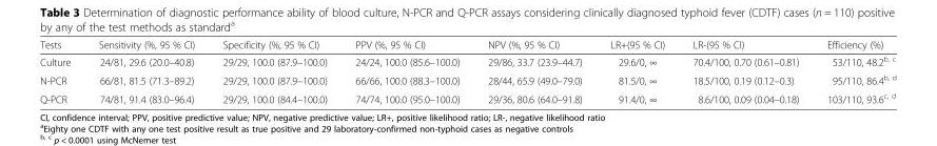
<table><thead><tr><td>Tests</td><td>Sensitivity (%, 95 % CI)</td><td>Specificity (%, 95 % CI)</td><td>PPV (%, 95 % CI)</td><td>NPV (%, 95 % CI)</td><td>LR+(95 % CI)</td><td>LR-(95 % CI)</td><td>Efficiency (%)</td></tr></thead><tbody><tr><td>Culture</td><td>24/81, 29.6 (20.0–40.8)</td><td>29/29, 100.0 (87.9–100.0)</td><td>24/24, 100.0 (85.6–100.0)</td><td>29/86, 33.7 (23.9–44.7)</td><td>29.6/0, ∞</td><td>70.4/100, 0.70 (0.61–0.81)</td><td>53/110, 48.2<sup>b, c</sup></td></tr><tr><td>N-PCR</td><td>66/81, 81.5 (71.3–89.2)</td><td>29/29, 100.0 (87.9–100.0)</td><td>66/66, 100.0 (88.3–100.0)</td><td>28/44, 65.9 (49.0–79.0)</td><td>81.5/0, ∞</td><td>18.5/100, 0.19 (0.12–0.3)</td><td>95/110, 86.4<sup>b, d</sup></td></tr><tr><td>Q-PCR</td><td>74/81, 91.4 (83.0–96.4)</td><td>29/29, 100.0 (84.4–100.0)</td><td>74/74, 100.0 (95.0–100.0)</td><td>29/36, 80.6 (64.0–91.8)</td><td>91.4/0, ∞</td><td>8.6/100, 0.09 (0.04–0.18)</td><td>103/110, 93.6<sup>c, d</sup></td></tr></tbody></table>